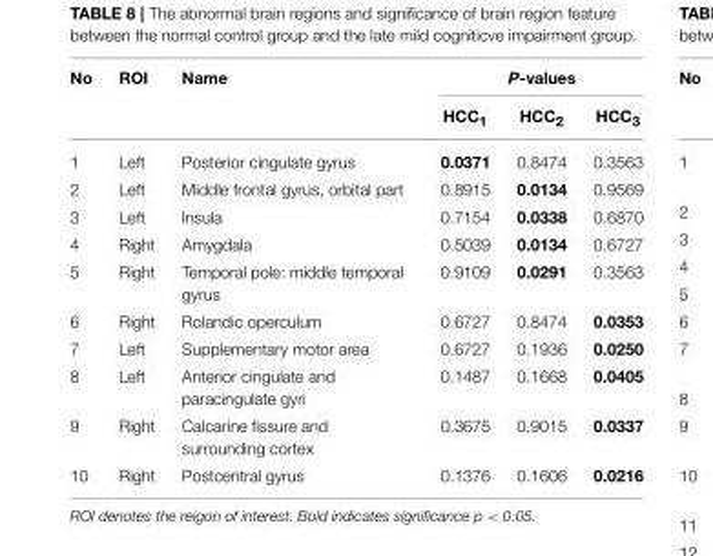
<table><thead><tr><td rowspan="2">No</td><td rowspan="2">ROI</td><td rowspan="2">Name</td><td colspan="3">P-values</td></tr><tr><td>HCC<sub>1</sub></td><td>HCC<sub>2</sub></td><td>HCC<sub>3</sub></td></tr></thead><tbody><tr><td>1</td><td>Left</td><td>Posterior cingulate gyrus</td><td>0.0371</td><td>0.8474</td><td>0.3563</td></tr><tr><td>2</td><td>Left</td><td>Middle frontal gyrus, orbital part</td><td>0.8915</td><td>0.0134</td><td>0.9569</td></tr><tr><td>3</td><td>Left</td><td>Insula</td><td>0.7154</td><td>0.0338</td><td>0.6870</td></tr><tr><td>4</td><td>Right</td><td>Amygdala</td><td>0.5039</td><td>0.0134</td><td>0.6727</td></tr><tr><td>5</td><td>Right</td><td>Temporal pole: middle temporal gyrus</td><td>0.9109</td><td>0.0291</td><td>0.3563</td></tr><tr><td>6</td><td>Right</td><td>Rolandic operculum</td><td>0.6727</td><td>0.8474</td><td>0.0353</td></tr><tr><td>7</td><td>Left</td><td>Supplementary motor area</td><td>0.6727</td><td>0.1936</td><td>0.0250</td></tr><tr><td>8</td><td>Left</td><td>Anterior cingulate and paracingulate gyri</td><td>0.1487</td><td>0.1668</td><td>0.0405</td></tr><tr><td>9</td><td>Right</td><td>Calcarine fissure and surrounding cortex</td><td>0.3675</td><td>0.9015</td><td>0.0337</td></tr><tr><td>10</td><td>Right</td><td>Postcentral gyrus</td><td>0.1376</td><td>0.1606</td><td>0.0216</td></tr></tbody></table>